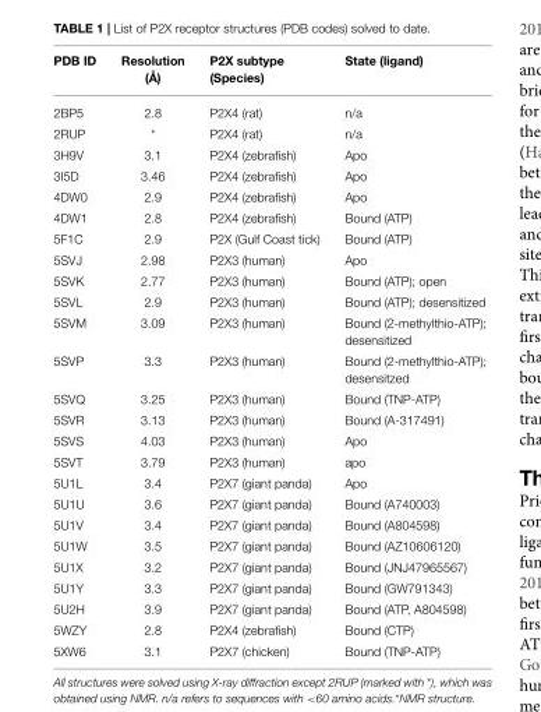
<table><thead><tr><td>PDB ID</td><td>Resolution (Å)</td><td>P2X subtype (Species)</td><td>State (ligand)</td></tr></thead><tbody><tr><td>2BP5</td><td>2.8</td><td>P2X4 (rat)</td><td>n/a</td></tr><tr><td>2RUP</td><td>*</td><td>P2X4 (rat)</td><td>n/a</td></tr><tr><td>3H9V</td><td>3.1</td><td>P2X4 (zebrafish)</td><td>Apo</td></tr><tr><td>3I5D</td><td>3.46</td><td>P2X4 (zebrafish)</td><td>Apo</td></tr><tr><td>4DW0</td><td>2.9</td><td>P2X4 (zebrafish)</td><td>Apo</td></tr><tr><td>4DW1</td><td>2.8</td><td>P2X4 (zebrafish)</td><td>Bound (ATP)</td></tr><tr><td>5F1C</td><td>2.9</td><td>P2X (Gulf Coast tick)</td><td>Bound (ATP)</td></tr><tr><td>5SVJ</td><td>2.98</td><td>P2X3 (human)</td><td>Apo</td></tr><tr><td>5SVK</td><td>2.77</td><td>P2X3 (human)</td><td>Bound (ATP); open</td></tr><tr><td>5SVL</td><td>2.9</td><td>P2X3 (human)</td><td>Bound (ATP); desensitized</td></tr><tr><td>5SVM</td><td>3.09</td><td>P2X3 (human)</td><td>Bound (2-methylthio-ATP); desensitized</td></tr><tr><td>5SVP</td><td>3.3</td><td>P2X3 (human)</td><td>Bound (2-methylthio-ATP); desensitzed</td></tr><tr><td>5SVQ</td><td>3.25</td><td>P2X3 (human)</td><td>Bound (TNP-ATP)</td></tr><tr><td>5SVR</td><td>3.13</td><td>P2X3 (human)</td><td>Bound (A-317491)</td></tr><tr><td>5SVS</td><td>4.03</td><td>P2X3 (human)</td><td>Apo</td></tr><tr><td>5SVT</td><td>3.79</td><td>P2X3 (human)</td><td>apo</td></tr><tr><td>5U1L</td><td>3.4</td><td>P2X7 (giant panda)</td><td>Apo</td></tr><tr><td>5U1U</td><td>3.6</td><td>P2X7 (giant panda)</td><td>Bound (A740003)</td></tr><tr><td>5U1V</td><td>3.4</td><td>P2X7 (giant panda)</td><td>Bound (A804598)</td></tr><tr><td>5U1W</td><td>3.5</td><td>P2X7 (giant panda)</td><td>Bound (AZ10606120)</td></tr><tr><td>5U1X</td><td>3.2</td><td>P2X7 (giant panda)</td><td>Bound (JNJ47965567)</td></tr><tr><td>5U1Y</td><td>3.3</td><td>P2X7 (giant panda)</td><td>Bound (GW791343)</td></tr><tr><td>5U2H</td><td>3.9</td><td>P2X7 (giant panda)</td><td>Bound (ATP, A804598)</td></tr><tr><td>5WZY</td><td>2.8</td><td>P2X4 (zebrafish)</td><td>Bound (CTP)</td></tr><tr><td>5XW6</td><td>3.1</td><td>P2X7 (chicken)</td><td>Bound (TNP-ATP)</td></tr></tbody></table>